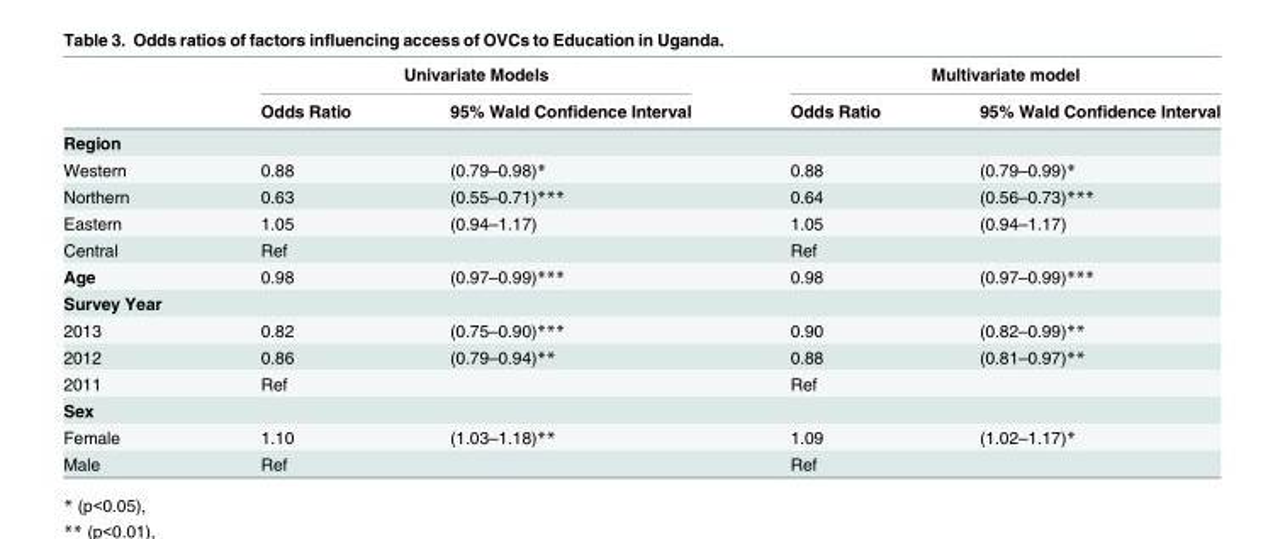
<table><thead><tr><td rowspan="2"></td><td colspan="2">Univariate Models</td><td colspan="2">Multivariate model</td></tr><tr><td>Odds Ratio</td><td>95% Wald Confidence Interval</td><td>Odds Ratio</td><td>95% Wald Confidence Interval</td></tr></thead><tbody><tr><td colspan="5">Region</td></tr><tr><td>Western</td><td>0.88</td><td>(0.79–0.98)*</td><td>0.88</td><td>(0.79–0.99)*</td></tr><tr><td>Northern</td><td>0.63</td><td>(0.55–0.71)***</td><td>0.64</td><td>(0.56–0.73)***</td></tr><tr><td>Eastern</td><td>1.05</td><td>(0.94–1.17)</td><td>1.05</td><td>(0.94–1.17)</td></tr><tr><td>Central</td><td>Ref</td><td></td><td>Ref</td><td></td></tr><tr><td>Age</td><td>0.98</td><td>(0.97–0.99)***</td><td>0.98</td><td>(0.97–0.99)***</td></tr><tr><td colspan="5">Survey Year</td></tr><tr><td>2013</td><td>0.82</td><td>(0.75–0.90)***</td><td>0.90</td><td>(0.82–0.99)**</td></tr><tr><td>2012</td><td>0.86</td><td>(0.79–0.94)**</td><td>0.88</td><td>(0.81–0.97)**</td></tr><tr><td>2011</td><td>Ref</td><td></td><td>Ref</td><td></td></tr><tr><td colspan="5">Sex</td></tr><tr><td>Female</td><td>1.10</td><td>(1.03–1.18)**</td><td>1.09</td><td>(1.02–1.17)*</td></tr><tr><td>Male</td><td>Ref</td><td></td><td>Ref</td><td></td></tr></tbody></table>